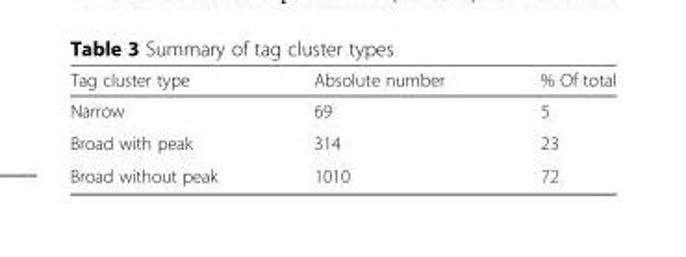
<table><thead><tr><td>Tag cluster type</td><td>Absolute number</td><td>% Of total</td></tr></thead><tbody><tr><td>Narrow</td><td>69</td><td>5</td></tr><tr><td>Broad with peak</td><td>314</td><td>23</td></tr><tr><td>Broad without peak</td><td>1010</td><td>72</td></tr></tbody></table>